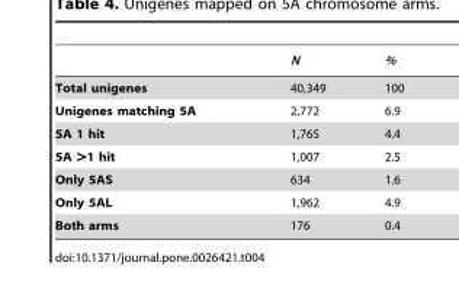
<table><thead><tr><td></td><td>N</td><td>%</td></tr></thead><tbody><tr><td>Total unigenes</td><td>40,349</td><td>100</td></tr><tr><td>Unigenes matching 5A</td><td>2,772</td><td>6.9</td></tr><tr><td>5A 1 hit</td><td>1,765</td><td>4.4</td></tr><tr><td>5A &gt;1 hit</td><td>1,007</td><td>2.5</td></tr><tr><td>Only 5AS</td><td>634</td><td>1.6</td></tr><tr><td>Only 5AL</td><td>1,962</td><td>4.9</td></tr><tr><td>Both arms</td><td>176</td><td>0.4</td></tr></tbody></table>